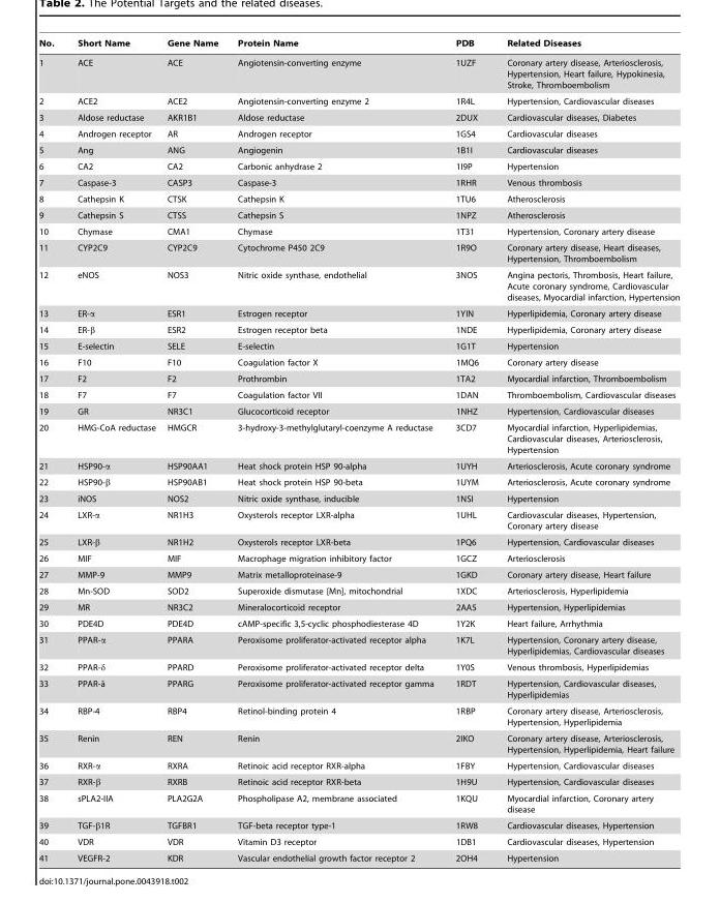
<table><thead><tr><td>No.</td><td>Short Name</td><td>Gene Name</td><td>Protein Name</td><td>PDB</td><td>Related Diseases</td></tr></thead><tbody><tr><td>1</td><td>ACE</td><td>ACE</td><td>Angiotensin-converting enzyme</td><td>1UZF</td><td>Coronary artery disease, Arteriosclerosis, Hypertension, Heart failure, Hypokinesia, Stroke, Thromboembolism</td></tr><tr><td>2</td><td>ACE2</td><td>ACE2</td><td>Angiotensin-converting enzyme 2</td><td>1R4L</td><td>Hypertension, Cardiovascular diseases</td></tr><tr><td>3</td><td>Aldose reductase</td><td>AKR1B1</td><td>Aldose reductase</td><td>2DUX</td><td>Cardiovascular diseases, Diabetes</td></tr><tr><td>4</td><td>Androgen receptor</td><td>AR</td><td>Androgen receptor</td><td>1GS4</td><td>Cardiovascular diseases</td></tr><tr><td>5</td><td>Ang</td><td>ANG</td><td>Angiogenin</td><td>1B1I</td><td>Cardiovascular diseases</td></tr><tr><td>6</td><td>CA2</td><td>CA2</td><td>Carbonic anhydrase 2</td><td>1I9P</td><td>Hypertension</td></tr><tr><td>7</td><td>Caspase-3</td><td>CASP3</td><td>Caspase-3</td><td>1RHR</td><td>Venous thrombosis</td></tr><tr><td>8</td><td>Cathepsin K</td><td>CTSK</td><td>Cathepsin K</td><td>1TU6</td><td>Atherosclerosis</td></tr><tr><td>9</td><td>Cathepsin S</td><td>CTSS</td><td>Cathepsin S</td><td>1NPZ</td><td>Atherosclerosis</td></tr><tr><td>10</td><td>Chymase</td><td>CMA1</td><td>Chymase</td><td>1T31</td><td>Hypertension, Coronary artery disease</td></tr><tr><td>11</td><td>CYP2C9</td><td>CYP2C9</td><td>Cytochrome P450 2C9</td><td>1R9O</td><td>Coronary artery disease, Heart diseases, Hypertension, Thromboembolism</td></tr><tr><td>12</td><td>eNOS</td><td>NOS3</td><td>Nitric oxide synthase, endothelial</td><td>3NOS</td><td>Angina pectoris, Thrombosis, Heart failure, Acute coronary syndrome, Cardiovascular diseases, Myocardial infarction, Hypertension</td></tr><tr><td>13</td><td>ER-α</td><td>ESR1</td><td>Estrogen receptor</td><td>1YIN</td><td>Hyperlipidemia, Coronary artery disease</td></tr><tr><td>14</td><td>ER-β</td><td>ESR2</td><td>Estrogen receptor beta</td><td>1NDE</td><td>Hyperlipidemia, Coronary artery disease</td></tr><tr><td>15</td><td>E-selectin</td><td>SELE</td><td>E-selectin</td><td>1G1T</td><td>Hypertension</td></tr><tr><td>16</td><td>F10</td><td>F10</td><td>Coagulation factor X</td><td>1MQ6</td><td>Coronary artery disease</td></tr><tr><td>17</td><td>F2</td><td>F2</td><td>Prothrombin</td><td>1TA2</td><td>Myocardial infarction, Thromboembolism</td></tr><tr><td>18</td><td>F7</td><td>F7</td><td>Coagulation factor VII</td><td>1DAN</td><td>Thromboembolism, Cardiovascular diseases</td></tr><tr><td>19</td><td>GR</td><td>NR3C1</td><td>Glucocorticoid receptor</td><td>1NHZ</td><td>Hypertension, Cardiovascular diseases</td></tr><tr><td>20</td><td>HMG-CoA reductase</td><td>HMGCR</td><td>3-hydroxy-3-methylglutaryl-coenzyme A reductase</td><td>3CD7</td><td>Myocardial infarction, Hyperlipidemias, Cardiovascular diseases, Arteriosclerosis, Hypertension</td></tr><tr><td>21</td><td>HSP90-α</td><td>HSP90AA1</td><td>Heat shock protein HSP 90-alpha</td><td>1UYH</td><td>Arteriosclerosis, Acute coronary syndrome</td></tr><tr><td>22</td><td>HSP90-β</td><td>HSP90AB1</td><td>Heat shock protein HSP 90-beta</td><td>1UYM</td><td>Arteriosclerosis, Acute coronary syndrome</td></tr><tr><td>23</td><td>iNOS</td><td>NOS2</td><td>Nitric oxide synthase, inducible</td><td>1NSI</td><td>Hypertension</td></tr><tr><td>24</td><td>LXR-α</td><td>NR1H3</td><td>Oxysterols receptor LXR-alpha</td><td>1UHL</td><td>Cardiovascular diseases, Hypertension, Coronary artery disease</td></tr><tr><td>25</td><td>LXR-β</td><td>NR1H2</td><td>Oxysterols receptor LXR-beta</td><td>1PQ6</td><td>Hypertension, Cardiovascular diseases</td></tr><tr><td>26</td><td>MIF</td><td>MIF</td><td>Macrophage migration inhibitory factor</td><td>1GCZ</td><td>Arteriosclerosis</td></tr><tr><td>27</td><td>MMP-9</td><td>MMP9</td><td>Matrix metalloproteinase-9</td><td>1GKD</td><td>Coronary artery disease, Heart failure</td></tr><tr><td>28</td><td>Mn-SOD</td><td>SOD2</td><td>Superoxide dismutase [Mn], mitochondrial</td><td>1XDC</td><td>Arteriosclerosis, Hyperlipidemia</td></tr><tr><td>29</td><td>MR</td><td>NR3C2</td><td>Mineralocorticoid receptor</td><td>2AA5</td><td>Hypertension, Hyperlipidemias</td></tr><tr><td>30</td><td>PDE4D</td><td>PDE4D</td><td>cAMP-specific 3,5-cyclic phosphodiesterase 4D</td><td>1Y2K</td><td>Heart failure, Arrhythmia</td></tr><tr><td>31</td><td>PPAR-α</td><td>PPARA</td><td>Peroxisome proliferator-activated receptor alpha</td><td>1K7L</td><td>Hypertension, Coronary artery disease, Hyperlipidemias, Cardiovascular diseases</td></tr><tr><td>32</td><td>PPAR-δ</td><td>PPARD</td><td>Peroxisome proliferator-activated receptor delta</td><td>1Y0S</td><td>Venous thrombosis, Hyperlipidemias</td></tr><tr><td>33</td><td>PPAR-a˜</td><td>PPARG</td><td>Peroxisome proliferator-activated receptor gamma</td><td>1RDT</td><td>Hypertension, Cardiovascular diseases, Hyperlipidemias</td></tr><tr><td>34</td><td>RBP-4</td><td>RBP4</td><td>Retinol-binding protein 4</td><td>1RBP</td><td>Coronary artery disease, Arteriosclerosis, Hypertension, Hyperlipidemia</td></tr><tr><td>35</td><td>Renin</td><td>REN</td><td>Renin</td><td>2IKO</td><td>Coronary artery disease, Arteriosclerosis, Hypertension, Hyperlipidemia, Heart failure</td></tr><tr><td>36</td><td>RXR-α</td><td>RXRA</td><td>Retinoic acid receptor RXR-alpha</td><td>1FBY</td><td>Hypertension, Cardiovascular diseases</td></tr><tr><td>37</td><td>RXR-β</td><td>RXRB</td><td>Retinoic acid receptor RXR-beta</td><td>1H9U</td><td>Hypertension, Cardiovascular diseases</td></tr><tr><td>38</td><td>sPLA2-IIA</td><td>PLA2G2A</td><td>Phospholipase A2, membrane associated</td><td>1KQU</td><td>Myocardial infarction, Coronary artery disease</td></tr><tr><td>39</td><td>TGF-β1R</td><td>TGFBR1</td><td>TGF-beta receptor type-1</td><td>1RW8</td><td>Cardiovascular diseases, Hypertension</td></tr><tr><td>40</td><td>VDR</td><td>VDR</td><td>Vitamin D3 receptor</td><td>1DB1</td><td>Cardiovascular diseases, Hypertension</td></tr><tr><td>41</td><td>VEGFR-2</td><td>KDR</td><td>Vascular endothelial growth factor receptor 2</td><td>2OH4</td><td>Hypertension</td></tr></tbody></table>